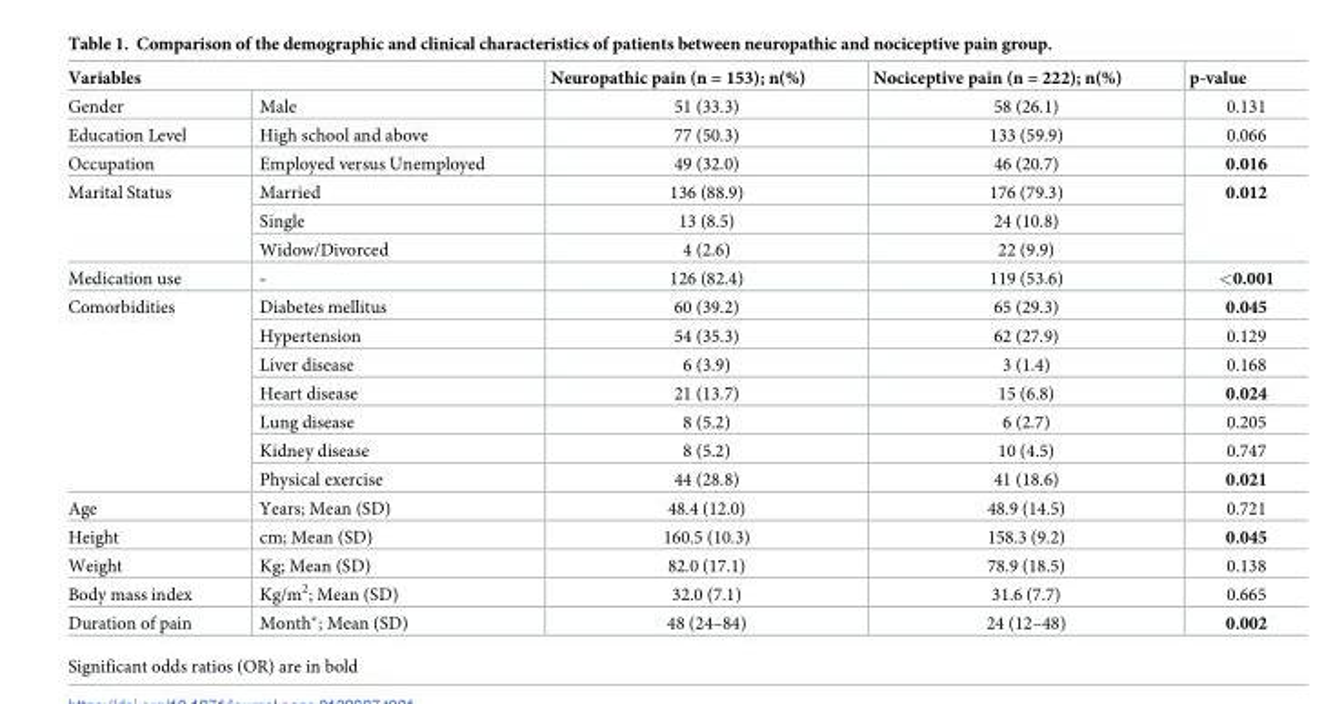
<table><thead><tr><td colspan="2">Variables</td><td rowspan="2">Neuropathic pain (n = 153); n(%) 51 (33.3)</td><td rowspan="2">Nociceptive pain (n = 222); n(%) 58 (26.1)</td><td rowspan="2">p-value 0.131</td></tr><tr><td>Gender</td><td>Male</td></tr></thead><tbody><tr><td>Education Level</td><td>High school and above</td><td>77 (50.3)</td><td>133 (59.9)</td><td>0.066</td></tr><tr><td>Occupation</td><td>Employed versus Unemployed</td><td>49 (32.0)</td><td>46 (20.7)</td><td>0.016</td></tr><tr><td rowspan="3">Marital Status</td><td>Married</td><td>136 (88.9)</td><td>176 (79.3)</td><td rowspan="3">0.012</td></tr><tr><td>Single</td><td>13 (8.5)</td><td>24 (10.8)</td></tr><tr><td>Widow/Divorced</td><td>4 (2.6)</td><td>22 (9.9)</td></tr><tr><td>Medication use</td><td>-</td><td>126 (82.4)</td><td>119 (53.6)</td><td>&lt;0.001</td></tr><tr><td rowspan="7">Comorbidities</td><td>Diabetes mellitus</td><td>60 (39.2)</td><td>65 (29.3)</td><td>0.045</td></tr><tr><td>Hypertension</td><td>54 (35.3)</td><td>62 (27.9)</td><td>0.129</td></tr><tr><td>Liver disease</td><td>6 (3.9)</td><td>3 (1.4)</td><td>0.168</td></tr><tr><td>Heart disease</td><td>21 (13.7)</td><td>15 (6.8)</td><td>0.024</td></tr><tr><td>Lung disease</td><td>8 (5.2)</td><td>6 (2.7)</td><td>0.205</td></tr><tr><td>Kidney disease</td><td>8 (5.2)</td><td>10 (4.5)</td><td>0.747</td></tr><tr><td>Physical exercise</td><td>44 (28.8)</td><td>41 (18.6)</td><td>0.021</td></tr><tr><td>Age</td><td>Years; Mean (SD)</td><td>48.4 (12.0)</td><td>48.9 (14.5)</td><td>0.721</td></tr><tr><td>Height</td><td>cm; Mean (SD)</td><td>160.5 (10.3)</td><td>158.3 (9.2)</td><td>0.045</td></tr><tr><td>Weight</td><td>Kg; Mean (SD)</td><td>82.0 (17.1)</td><td>78.9 (18.5)</td><td>0.138</td></tr><tr><td>Body mass index</td><td>Kg/m<sup>2</sup>; Mean (SD)</td><td>32.0 (7.1)</td><td>31.6 (7.7)</td><td>0.665</td></tr><tr><td>Duration of pain</td><td>Month*; Mean (SD)</td><td>48 (24–84)</td><td>24 (12–48)</td><td>0.002</td></tr></tbody></table>